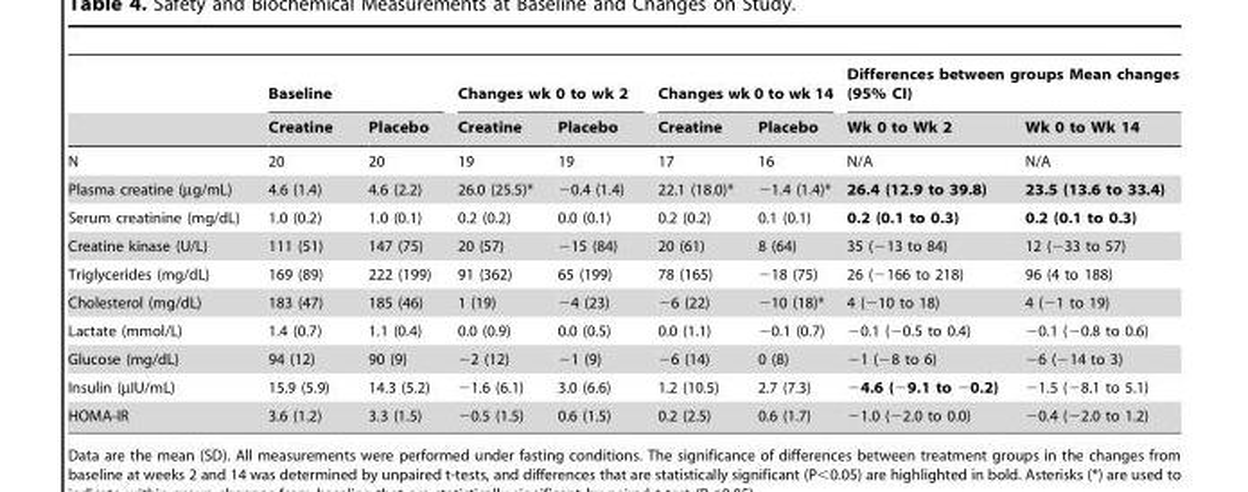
<table><thead><tr><td rowspan="2"></td><td colspan="2">Baseline</td><td colspan="2">Changes wk 0 to wk 2</td><td colspan="2">Changes wk 0 to wk 14</td><td colspan="2">Differences between groups Mean changes (95% CI)</td></tr><tr><td>Creatine</td><td>Placebo</td><td>Creatine</td><td>Placebo</td><td>Creatine</td><td>Placebo</td><td>Wk 0 to Wk 2</td><td>Wk 0 to Wk 14</td></tr></thead><tbody><tr><td>N</td><td>20</td><td>20</td><td>19</td><td>19</td><td>17</td><td>16</td><td>N/A</td><td>N/A</td></tr><tr><td>Plasma creatine (µg/mL)</td><td>4.6 (1.4)</td><td>4.6 (2.2)</td><td>26.0 (25.5)*</td><td>−0.4 (1.4)</td><td>22.1 (18.0)*</td><td>−1.4 (1.4)*</td><td>26.4 (12.9 to 39.8)</td><td>23.5 (13.6 to 33.4)</td></tr><tr><td>Serum creatinine (mg/dL)</td><td>1.0 (0.2)</td><td>1.0 (0.1)</td><td>0.2 (0.2)</td><td>0.0 (0.1)</td><td>0.2 (0.2)</td><td>0.1 (0.1)</td><td>0.2 (0.1 to 0.3)</td><td>0.2 (0.1 to 0.3)</td></tr><tr><td>Creatine kinase (U/L)</td><td>111 (51)</td><td>147 (75)</td><td>20 (57)</td><td>−15 (84)</td><td>20 (61)</td><td>8 (64)</td><td>35 (−13 to 84)</td><td>12 (−33 to 57)</td></tr><tr><td>Triglycerides (mg/dL)</td><td>169 (89)</td><td>222 (199)</td><td>91 (362)</td><td>65 (199)</td><td>78 (165)</td><td>−18 (75)</td><td>26 (−166 to 218)</td><td>96 (4 to 188)</td></tr><tr><td>Cholesterol (mg/dL)</td><td>183 (47)</td><td>185 (46)</td><td>1 (19)</td><td>−4 (23)</td><td>−6 (22)</td><td>−10 (18)*</td><td>4 (−10 to 18)</td><td>4 (−1 to 19)</td></tr><tr><td>Lactate (mmol/L)</td><td>1.4 (0.7)</td><td>1.1 (0.4)</td><td>0.0 (0.9)</td><td>0.0 (0.5)</td><td>0.0 (1.1)</td><td>−0.1 (0.7)</td><td>−0.1 (−0.5 to 0.4)</td><td>−0.1 (−0.8 to 0.6)</td></tr><tr><td>Glucose (mg/dL)</td><td>94 (12)</td><td>90 (9)</td><td>−2 (12)</td><td>−1 (9)</td><td>−6 (14)</td><td>0 (8)</td><td>−1 (−8 to 6)</td><td>−6 (−14 to 3)</td></tr><tr><td>Insulin (µIU/mL)</td><td>15.9 (5.9)</td><td>14.3 (5.2)</td><td>−1.6 (6.1)</td><td>3.0 (6.6)</td><td>1.2 (10.5)</td><td>2.7 (7.3)</td><td>−4.6 (−9.1 to −0.2)</td><td>−1.5 (−8.1 to 5.1)</td></tr><tr><td>HOMA-IR</td><td>3.6 (1.2)</td><td>3.3 (1.5)</td><td>−0.5 (1.5)</td><td>0.6 (1.5)</td><td>0.2 (2.5)</td><td>0.6 (1.7)</td><td>−1.0 (−2.0 to 0.0)</td><td>−0.4 (−2.0 to 1.2)</td></tr></tbody></table>